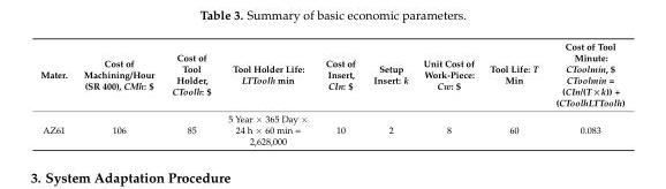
<table><thead><tr><td>Mater.</td><td>Cost of Machining/Hour (SR 400), CMh: $</td><td>Cost of Tool Holder, CToolh: $</td><td>Tool Holder Life: LTToolh min</td><td>Cost of Insert, CIn: $</td><td>Setup Insert: k</td><td>Unit Cost of Work-Piece: Cw: $</td><td>Tool Life: T Min</td><td>Cost of Tool Minute: CToolmin, $ CToolmin = (CIn/(T×k)) + (CToolhLTToolh)</td></tr></thead><tbody><tr><td>AZ61</td><td>106</td><td>85</td><td>5 Year × 365 Day × 24 h × 60 min = 2,628,000</td><td>10</td><td>2</td><td>8</td><td>60</td><td>0.083</td></tr></tbody></table>